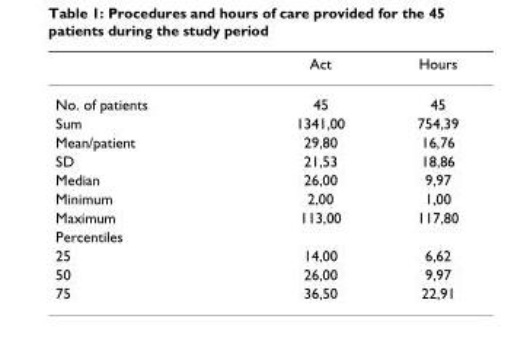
<table><thead><tr><td></td><td>Act</td><td>Hours</td></tr></thead><tbody><tr><td>No. of patients</td><td>45</td><td>45</td></tr><tr><td>Sum</td><td>1341,00</td><td>754,39</td></tr><tr><td>Mean/patient</td><td>29,80</td><td>16,76</td></tr><tr><td>SD</td><td>21,53</td><td>18,86</td></tr><tr><td>Median</td><td>26,00</td><td>9,97</td></tr><tr><td>Minimum</td><td>2,00</td><td>1,00</td></tr><tr><td>Maximum</td><td>113,00</td><td>117,80</td></tr><tr><td colspan="3">Percentiles</td></tr><tr><td>25</td><td>14,00</td><td>6,62</td></tr><tr><td>50</td><td>26,00</td><td>9,97</td></tr><tr><td>75</td><td>36,50</td><td>22,91</td></tr></tbody></table>